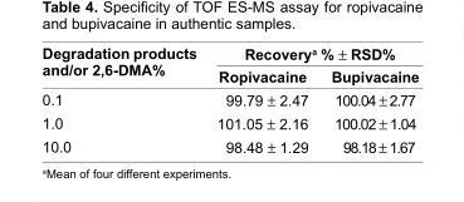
<table><thead><tr><td rowspan="2">Degradation products and/or 2,6-DMA%</td><td colspan="2">Recovery<sup>a</sup> % ± RsD%</td></tr><tr><td>Ropivacaine</td><td>Bupivacaine</td></tr></thead><tbody><tr><td>0.1</td><td>99.79 ± 2.47</td><td>100.04 ± 2.77</td></tr><tr><td>1.0</td><td>101.05 ± 2.16</td><td>100.02 ± 1.04</td></tr><tr><td>10.0</td><td>98.48 ± 1.29</td><td>98.18 ± 1.67</td></tr></tbody></table>